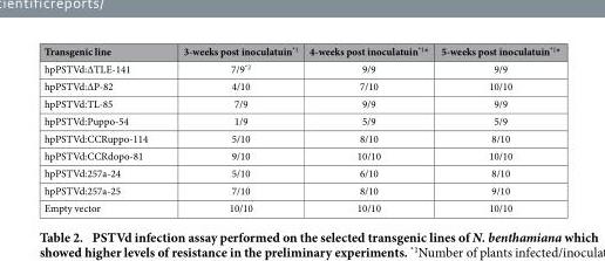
<table><thead><tr><td>Transgenic line</td><td>3-weeks post inoculatuin*1</td><td>4-weeks post inoculatuin*1*</td><td>5-weeks post inoculatuin*1*</td></tr></thead><tbody><tr><td>hpPSTVd:∆TLE-141</td><td>7/9*2</td><td>9/9</td><td>9/9</td></tr><tr><td>hpPSTVd:∆P-82</td><td>4/10</td><td>7/10</td><td>10/10</td></tr><tr><td>hpPSTVd:TL-85</td><td>7/9</td><td>9/9</td><td>9/9</td></tr><tr><td>hpPSTVd:Puppo-54</td><td>1/9</td><td>5/9</td><td>5/9</td></tr><tr><td>hpPSTVd:CCRuppo-114</td><td>5/10</td><td>8/10</td><td>8/10</td></tr><tr><td>hpPSTVd:CCRdopo-81</td><td>9/10</td><td>10/10</td><td>10/10</td></tr><tr><td>hpPSTVd:257a-24</td><td>5/10</td><td>6/10</td><td>8/10</td></tr><tr><td>hpPSTVd:257a-25</td><td>7/10</td><td>8/10</td><td>9/10</td></tr><tr><td>Empty vector</td><td>10/10</td><td>10/10</td><td>10/10</td></tr></tbody></table>